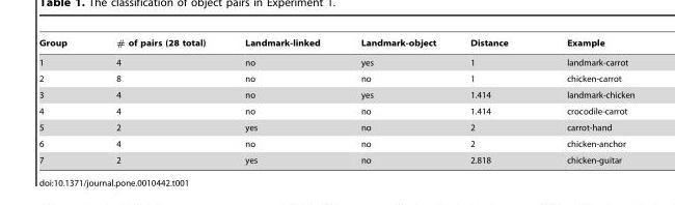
<table><thead><tr><td>Group</td><td># of pairs (28 total)</td><td>Landmark-linked</td><td>Landmark-object</td><td>Distance</td><td>Example</td></tr></thead><tbody><tr><td>1</td><td>4</td><td>no</td><td>yes</td><td>1</td><td>landmark-carrot</td></tr><tr><td>2</td><td>8</td><td>no</td><td>no</td><td>1</td><td>chicken-carrot</td></tr><tr><td>3</td><td>4</td><td>no</td><td>yes</td><td>1.414</td><td>landmark-chicken</td></tr><tr><td>4</td><td>4</td><td>no</td><td>no</td><td>1.414</td><td>crocodile-carrot</td></tr><tr><td>5</td><td>2</td><td>yes</td><td>no</td><td>2</td><td>carrot-hand</td></tr><tr><td>6</td><td>4</td><td>no</td><td>no</td><td>2</td><td>chicken-anchor</td></tr><tr><td>7</td><td>2</td><td>yes</td><td>no</td><td>2.818</td><td>chicken-guitar</td></tr></tbody></table>